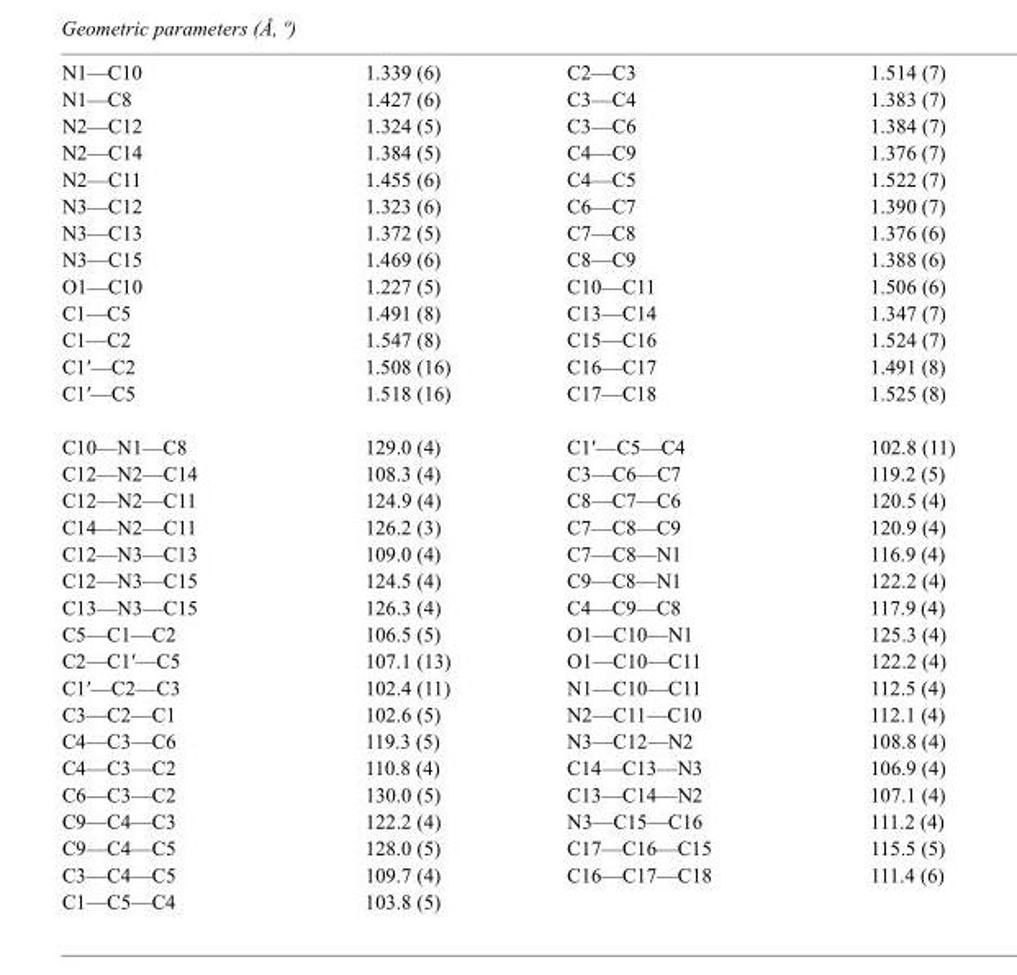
<table><tbody><tr><td>N1—C10</td><td>1.339 (6)</td><td>C2—C3</td><td>1.514 (7)</td></tr><tr><td>N1—C8</td><td>1.427 (6)</td><td>C3—C4</td><td>1.383 (7)</td></tr><tr><td>N2—C12</td><td>1.324 (5)</td><td>C3—C6</td><td>1.384 (7)</td></tr><tr><td>N2—C14</td><td>1.384 (5)</td><td>C4—C9</td><td>1.376 (7)</td></tr><tr><td>N2—C11</td><td>1.455 (6)</td><td>C4—C5</td><td>1.522 (7)</td></tr><tr><td>N3—C12</td><td>1.323 (6)</td><td>C6—C7</td><td>1.390 (7)</td></tr><tr><td>N3—C13</td><td>1.372 (5)</td><td>C7—C8</td><td>1.376 (6)</td></tr><tr><td>N3—C15</td><td>1.469 (6)</td><td>C8—C9</td><td>1.388 (6)</td></tr><tr><td>O1—C10</td><td>1.227 (5)</td><td>C10—C11</td><td>1.506 (6)</td></tr><tr><td>C1—C5</td><td>1.491 (8)</td><td>C13—C14</td><td>1.347 (7)</td></tr><tr><td>C1—C2</td><td>1.547 (8)</td><td>C15—C16</td><td>1.524 (7)</td></tr><tr><td>C1′—C2</td><td>1.508 (16)</td><td>C16—C17</td><td>1.491 (8)</td></tr><tr><td>C1′—C5</td><td>1.518 (16)</td><td>C17—C18</td><td>1.525 (8)</td></tr><tr><td>C10—N1—C8</td><td>129.0 (4)</td><td>C1′—C5—C4</td><td>102.8 (11)</td></tr><tr><td>C12—N2—C14</td><td>108.3 (4)</td><td>C3—C6—C7</td><td>119.2 (5)</td></tr><tr><td>C12—N2—C11</td><td>124.9 (4)</td><td>C8—C7—C6</td><td>120.5 (4)</td></tr><tr><td>C14—N2—C11</td><td>126.2 (3)</td><td>C7—C8—C9</td><td>120.9 (4)</td></tr><tr><td>C12—N3—C13</td><td>109.0 (4)</td><td>C7—C8—N1</td><td>116.9 (4)</td></tr><tr><td>C12—N3—C15</td><td>124.5 (4)</td><td>C9—C8—N1</td><td>122.2 (4)</td></tr><tr><td>C13—N3—C15</td><td>126.3 (4)</td><td>C4—C9—C8</td><td>117.9 (4)</td></tr><tr><td>C5—C1—C2</td><td>106.5 (5)</td><td>O1—C10—N1</td><td>125.3 (4)</td></tr><tr><td>C2—C1′—C5</td><td>107.1 (13)</td><td>O1—C10—C11</td><td>122.2 (4)</td></tr><tr><td>C1′—C2—C3</td><td>102.4 (11)</td><td>N1—C10—C11</td><td>112.5 (4)</td></tr><tr><td>C3—C2—C1</td><td>102.6 (5)</td><td>N2—C11—C10</td><td>112.1 (4)</td></tr><tr><td>C4—C3—C6</td><td>119.3 (5)</td><td>N3—C12—N2</td><td>108.8 (4)</td></tr><tr><td>C4—C3—C2</td><td>110.8 (4)</td><td>C14—C13—N3</td><td>106.9 (4)</td></tr><tr><td>C6—C3—C2</td><td>130.0 (5)</td><td>C13—C14—N2</td><td>107.1 (4)</td></tr><tr><td>C9—C4—C3</td><td>122.2 (4)</td><td>N3—C15—C16</td><td>111.2 (4)</td></tr><tr><td>C9—C4—C5</td><td>128.0 (5)</td><td>C17—C16—C15</td><td>115.5 (5)</td></tr><tr><td>C3—C4—C5</td><td>109.7 (4)</td><td>C16—C17—C18</td><td>111.4 (6)</td></tr><tr><td>C1—C5—C4</td><td>103.8 (5)</td><td></td><td></td></tr></tbody></table>